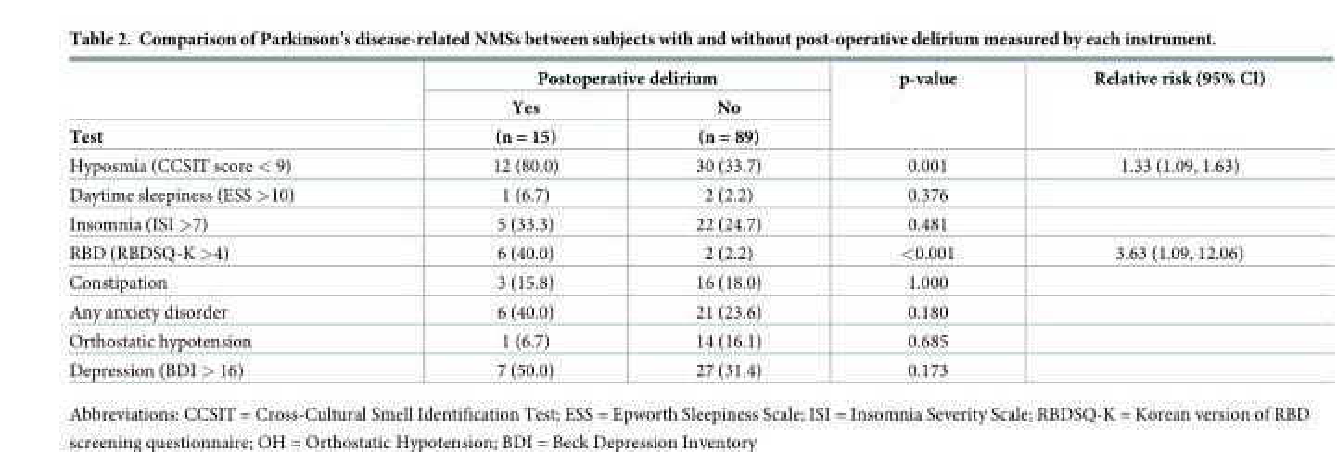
<table><thead><tr><td rowspan="3">Test</td><td colspan="2">Postoperative delirium</td><td rowspan="3">p-value</td><td rowspan="3">Relative risk (95% CI)</td></tr><tr><td rowspan="2">Yes (n = 15)</td><td rowspan="2">No (n = 89)</td></tr><tr></tr></thead><tbody><tr><td>Hyposmia (CCSIT score &lt; 9)</td><td>12 (80.0)</td><td>30 (33.7)</td><td>0.001</td><td>1.33 (1.09, 1.63)</td></tr><tr><td>Daytime sleepiness (ESS &gt;10)</td><td>1 (6.7)</td><td>2 (2.2)</td><td>0.376</td><td></td></tr><tr><td>Insomnia (ISI &gt;7)</td><td>5 (33.3)</td><td>22 (24.7)</td><td>0.481</td><td></td></tr><tr><td>RBD (RBDSQ-K &gt;4)</td><td>6 (40.0)</td><td>2 (2.2)</td><td>&lt;0.001</td><td>3.63 (1.09, 12.06)</td></tr><tr><td>Constipation</td><td>3 (15.8)</td><td>16 (18.0)</td><td>1.000</td><td></td></tr><tr><td>Any anxiety disorder</td><td>6 (40.0)</td><td>21 (23.6)</td><td>0.180</td><td></td></tr><tr><td>Orthostatic hypotension</td><td>1 (6.7)</td><td>14 (16.1)</td><td>0.685</td><td></td></tr><tr><td>Depression (BDI &gt; 16)</td><td>7 (50.0)</td><td>27 (31.4)</td><td>0.173</td><td></td></tr></tbody></table>